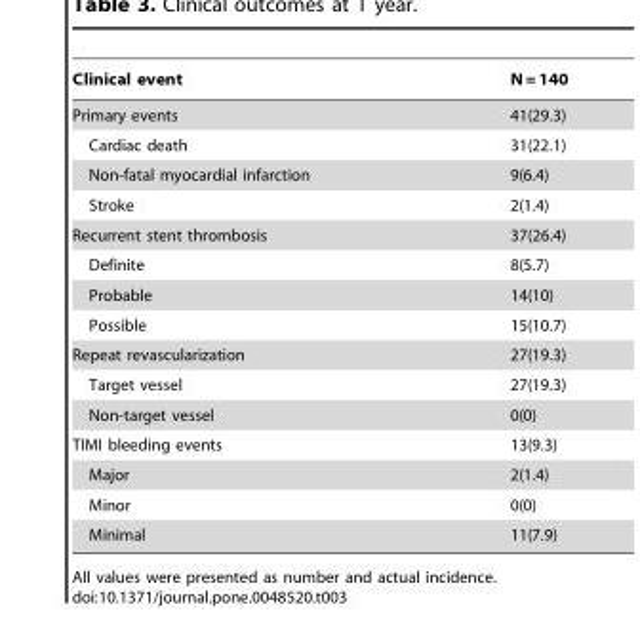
<table><thead><tr><td>Clinical event</td><td>N = 140</td></tr></thead><tbody><tr><td>Primary events</td><td>41(29.3)</td></tr><tr><td>Cardiac death</td><td>31(22.1)</td></tr><tr><td>Non-fatal myocardial infarction</td><td>9(6.4)</td></tr><tr><td>Stroke</td><td>2(1.4)</td></tr><tr><td>Recurrent stent thrombosis</td><td>37(26.4)</td></tr><tr><td>Definite</td><td>8(5.7)</td></tr><tr><td>Probable</td><td>14(10)</td></tr><tr><td>Possible</td><td>15(10.7)</td></tr><tr><td>Repeat revascularization</td><td>27(19.3)</td></tr><tr><td>Target vessel</td><td>27(19.3)</td></tr><tr><td>Non-target vessel</td><td>0(0)</td></tr><tr><td>TIMI bleeding events</td><td>13(9.3)</td></tr><tr><td>Major</td><td>2(1.4)</td></tr><tr><td>Minor</td><td>0(0)</td></tr><tr><td>Minimal</td><td>11(7.9)</td></tr></tbody></table>